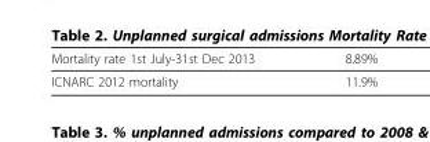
<table><tbody><tr><td>Mortality rate 1st July-31st Dec 2013</td><td>8.89%</td></tr><tr><td>ICNARC 2012 mortality</td><td>11.9%</td></tr></tbody></table>